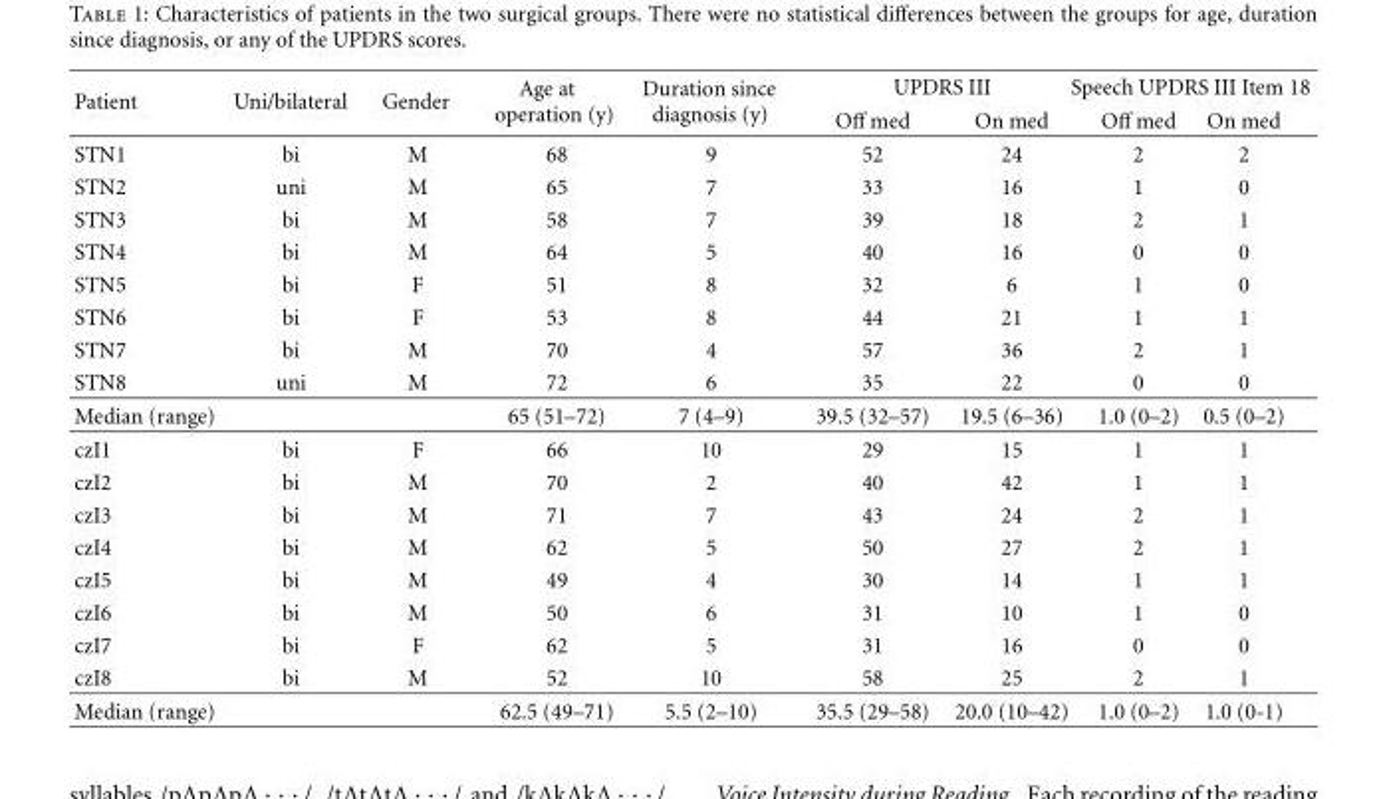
<table><thead><tr><td rowspan="2">Patient</td><td rowspan="2">Uni/bilateral</td><td rowspan="2">Gender</td><td rowspan="2">Age at operation (y)</td><td rowspan="2">Duration since diagnosis (y)</td><td colspan="2">UPDRS III</td><td colspan="2">Speech UPDRS III Item 18</td></tr><tr><td>Off med</td><td>On med</td><td>Off med</td><td>On med</td></tr></thead><tbody><tr><td>STN1</td><td>bi</td><td>M</td><td>68</td><td>9</td><td>52</td><td>24</td><td>2</td><td>2</td></tr><tr><td>STN2</td><td>uni</td><td>M</td><td>65</td><td>7</td><td>33</td><td>16</td><td>1</td><td>0</td></tr><tr><td>STN3</td><td>bi</td><td>M</td><td>58</td><td>7</td><td>39</td><td>18</td><td>2</td><td>1</td></tr><tr><td>STN4</td><td>bi</td><td>M</td><td>64</td><td>5</td><td>40</td><td>16</td><td>0</td><td>0</td></tr><tr><td>STN5</td><td>bi</td><td>F</td><td>51</td><td>8</td><td>32</td><td>6</td><td>1</td><td>0</td></tr><tr><td>STN6</td><td>bi</td><td>F</td><td>53</td><td>8</td><td>44</td><td>21</td><td>1</td><td>1</td></tr><tr><td>STN7</td><td>bi</td><td>M</td><td>70</td><td>4</td><td>57</td><td>36</td><td>2</td><td>1</td></tr><tr><td>STN8</td><td>uni</td><td>M</td><td>72</td><td>6</td><td>35</td><td>22</td><td>0</td><td>0</td></tr><tr><td>Median (range)</td><td></td><td></td><td>65 (51–72)</td><td>7 (4–9)</td><td>39.5 (32–57)</td><td>19.5 (6–36)</td><td>1.0 (0–2)</td><td>0.5 (0–2)</td></tr><tr><td>czI1</td><td>bi</td><td>F</td><td>66</td><td>10</td><td>29</td><td>15</td><td>1</td><td>1</td></tr><tr><td>czI2</td><td>bi</td><td>M</td><td>70</td><td>2</td><td>40</td><td>42</td><td>1</td><td>1</td></tr><tr><td>czI3</td><td>bi</td><td>M</td><td>71</td><td>7</td><td>43</td><td>24</td><td>2</td><td>1</td></tr><tr><td>czI4</td><td>bi</td><td>M</td><td>62</td><td>5</td><td>50</td><td>27</td><td>2</td><td>1</td></tr><tr><td>czI5</td><td>bi</td><td>M</td><td>49</td><td>4</td><td>30</td><td>14</td><td>1</td><td>1</td></tr><tr><td>czI6</td><td>bi</td><td>M</td><td>50</td><td>6</td><td>31</td><td>10</td><td>1</td><td>0</td></tr><tr><td>czI7</td><td>bi</td><td>F</td><td>62</td><td>5</td><td>31</td><td>16</td><td>0</td><td>0</td></tr><tr><td>czI8</td><td>bi</td><td>M</td><td>52</td><td>10</td><td>58</td><td>25</td><td>2</td><td>1</td></tr><tr><td>Median (range)</td><td></td><td></td><td>62.5 (49–71)</td><td>5.5 (2–10)</td><td>35.5 (29–58)</td><td>20.0 (10–42)</td><td>1.0 (0–2)</td><td>1.0 (0-1)</td></tr></tbody></table>